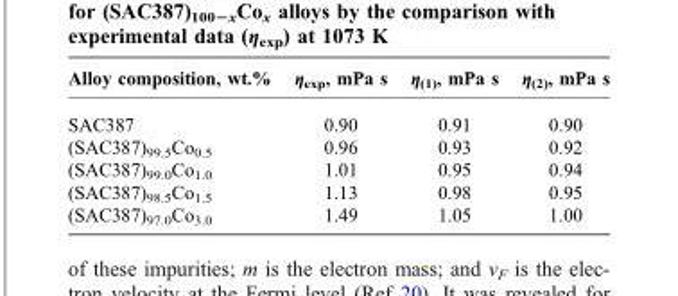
<table><thead><tr><td>Alloy composition, wt.%</td><td>η<sub>exp</sub>, mPa s</td><td>η<sub>(1)</sub>, mPa s</td><td>η<sub>(2)</sub>, mPa s</td></tr></thead><tbody><tr><td>SAC387</td><td>0.90</td><td>0.91</td><td>0.90</td></tr><tr><td>(SAC387)<sub>99.5</sub>Co<sub>0.5</sub></td><td>0.96</td><td>0.93</td><td>0.92</td></tr><tr><td>(SAC387)<sub>99.0</sub>Co<sub>1.0</sub></td><td>1.01</td><td>0.95</td><td>0.94</td></tr><tr><td>(SAC387)<sub>98.5</sub>Co<sub>1.5</sub></td><td>1.13</td><td>0.98</td><td>0.95</td></tr><tr><td>(SAC387)<sub>97.0</sub>Co<sub>3.0</sub></td><td>1.49</td><td>1.05</td><td>1.00</td></tr></tbody></table>